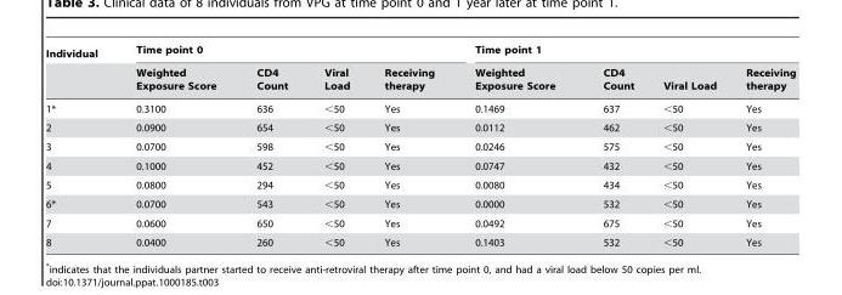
<table><thead><tr><td rowspan="2">Individual</td><td colspan="4">Time point 0</td><td colspan="4">Time point 1</td></tr><tr><td>Weighted Exposure Score</td><td>CD4 Count</td><td>Viral Load</td><td>Receiving therapy</td><td>Weighted Exposure Score</td><td>CD4 Count</td><td>Viral Load</td><td>Receiving therapy</td></tr></thead><tbody><tr><td>1*</td><td>0.3100</td><td>636</td><td>&lt;50</td><td>Yes</td><td>0.1469</td><td>637</td><td>&lt;50</td><td>Yes</td></tr><tr><td>2</td><td>0.0900</td><td>654</td><td>&lt;50</td><td>Yes</td><td>0.0112</td><td>462</td><td>&lt;50</td><td>Yes</td></tr><tr><td>3</td><td>0.0700</td><td>598</td><td>&lt;50</td><td>Yes</td><td>0.0246</td><td>575</td><td>&lt;50</td><td>Yes</td></tr><tr><td>4</td><td>0.1000</td><td>452</td><td>&lt;50</td><td>Yes</td><td>0.0747</td><td>432</td><td>&lt;50</td><td>Yes</td></tr><tr><td>5</td><td>0.0800</td><td>294</td><td>&lt;50</td><td>Yes</td><td>0.0080</td><td>434</td><td>&lt;50</td><td>Yes</td></tr><tr><td>6*</td><td>0.0700</td><td>543</td><td>&lt;50</td><td>Yes</td><td>0.0000</td><td>532</td><td>&lt;50</td><td>Yes</td></tr><tr><td>7</td><td>0.0600</td><td>650</td><td>&lt;50</td><td>Yes</td><td>0.0492</td><td>675</td><td>&lt;50</td><td>Yes</td></tr><tr><td>8</td><td>0.0400</td><td>260</td><td>&lt;50</td><td>Yes</td><td>0.1403</td><td>532</td><td>&lt;50</td><td>Yes</td></tr></tbody></table>